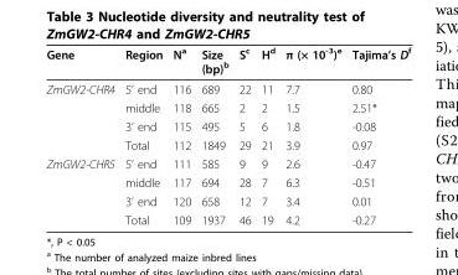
<table><thead><tr><td>Gene</td><td>Region</td><td>N<sup>a</sup></td><td>Size (bp)<sup>b</sup></td><td>S<sup>c</sup></td><td>H<sup>d</sup></td><td>π (× 10<sup>-3</sup>)<sup>e</sup></td><td>Tajima’s D<sup>f</sup></td></tr></thead><tbody><tr><td rowspan="4">ZmGW2-CHR4</td><td>5’ end</td><td>116</td><td>689</td><td>22</td><td>11</td><td>7.7</td><td>0.80</td></tr><tr><td>middle</td><td>118</td><td>665</td><td>2</td><td>2</td><td>1.5</td><td>2.51*</td></tr><tr><td>3’ end</td><td>115</td><td>495</td><td>5</td><td>6</td><td>1.8</td><td>-0.08</td></tr><tr><td>Total</td><td>112</td><td>1849</td><td>29</td><td>21</td><td>3.9</td><td>0.97</td></tr><tr><td rowspan="4">ZmGW2-CHR5</td><td>5’ end</td><td>111</td><td>585</td><td>9</td><td>9</td><td>2.6</td><td>-0.47</td></tr><tr><td>middle</td><td>117</td><td>694</td><td>28</td><td>7</td><td>6.3</td><td>-0.51</td></tr><tr><td>3’ end</td><td>120</td><td>658</td><td>12</td><td>7</td><td>3.4</td><td>0.01</td></tr><tr><td>Total</td><td>109</td><td>1937</td><td>46</td><td>19</td><td>4.2</td><td>-0.27</td></tr></tbody></table>